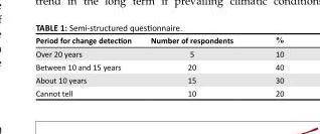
<table><thead><tr><td>Period for change detection</td><td>Number of respondents</td><td>%</td></tr></thead><tbody><tr><td>Over 20 years</td><td>5</td><td>10</td></tr><tr><td>Between 10 and 15 years</td><td>20</td><td>40</td></tr><tr><td>About 10 years</td><td>15</td><td>30</td></tr><tr><td>Cannot tell</td><td>10</td><td>20</td></tr></tbody></table>